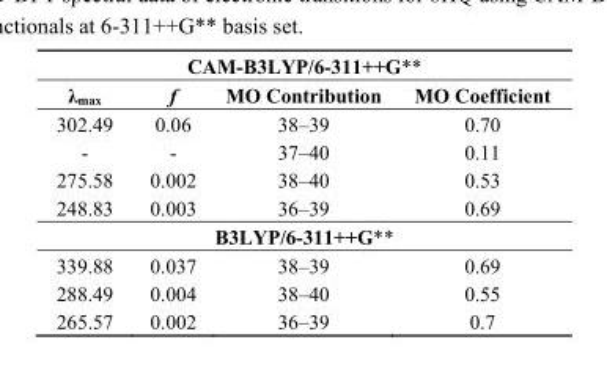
<table><thead><tr><td colspan="4">CAM-B3LYP/6-311++G**</td></tr><tr><td>λ<sub>max</sub></td><td>f</td><td>MO Contribution</td><td>MO Coefficient</td></tr></thead><tbody><tr><td>302.49</td><td>0.06</td><td>38–39</td><td>0.70</td></tr><tr><td>-</td><td>-</td><td>37–40</td><td>0.11</td></tr><tr><td>275.58</td><td>0.002</td><td>38–40</td><td>0.53</td></tr><tr><td>248.83</td><td>0.003</td><td>36–39</td><td>0.69</td></tr><tr><td colspan="4">B3LYP/6-311++G**</td></tr><tr><td>339.88</td><td>0.037</td><td>38–39</td><td>0.69</td></tr><tr><td>288.49</td><td>0.004</td><td>38–40</td><td>0.55</td></tr><tr><td>265.57</td><td>0.002</td><td>36–39</td><td>0.7</td></tr></tbody></table>